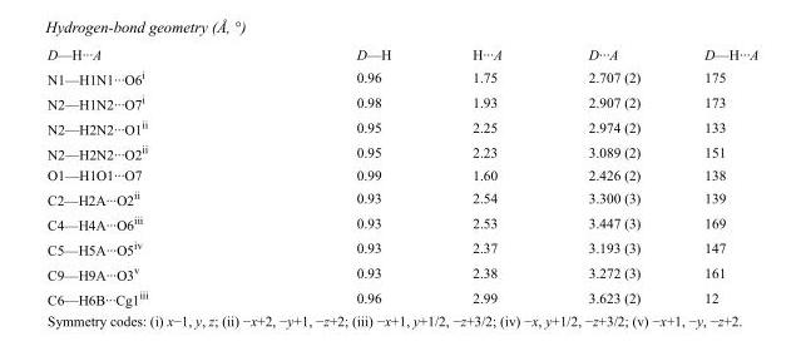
<table><tbody><tr><td>D—H···A</td><td>D—H</td><td>H···A</td><td>D···A</td><td>D—H···A</td></tr><tr><td>N1—H1N1···O6<sup>i</sup></td><td>0.96</td><td>1.75</td><td>2.707 (2)</td><td>175</td></tr><tr><td>N2—H1N2···O7<sup>i</sup></td><td>0.98</td><td>1.93</td><td>2.907 (2)</td><td>173</td></tr><tr><td>N2—H2N2···O1<sup>ii</sup></td><td>0.95</td><td>2.25</td><td>2.974 (2)</td><td>133</td></tr><tr><td>N2—H2N2···O2<sup>ii</sup></td><td>0.95</td><td>2.23</td><td>3.089 (2)</td><td>151</td></tr><tr><td>O1—H1O1···O7</td><td>0.99</td><td>1.60</td><td>2.426 (2)</td><td>138</td></tr><tr><td>C2—H2A···O2<sup>ii</sup></td><td>0.93</td><td>2.54</td><td>3.300 (3)</td><td>139</td></tr><tr><td>C4—H4A···O6<sup>iii</sup></td><td>0.93</td><td>2.53</td><td>3.447 (3)</td><td>169</td></tr><tr><td>C5—H5A···O5<sup>iv</sup></td><td>0.93</td><td>2.37</td><td>3.193 (3)</td><td>147</td></tr><tr><td>C9—H9A···O3<sup>v</sup></td><td>0.93</td><td>2.38</td><td>3.272 (3)</td><td>161</td></tr><tr><td>C6—H6B···Cg1<sup>iii</sup></td><td>0.96</td><td>2.99</td><td>3.623 (2)</td><td>12</td></tr></tbody></table>